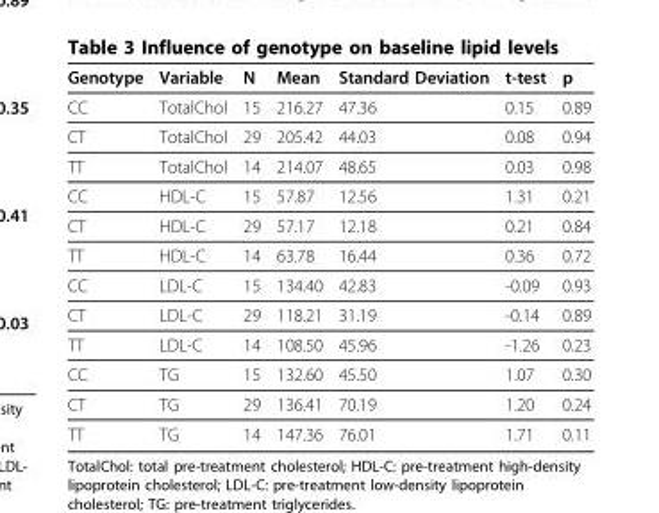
<table><thead><tr><td>Genotype</td><td>Variable</td><td>N</td><td>Mean</td><td>Standard Deviation</td><td>t-test</td><td>p</td></tr></thead><tbody><tr><td>CC</td><td>TotalChol</td><td>15</td><td>216.27</td><td>47.36</td><td>0.15</td><td>0.89</td></tr><tr><td>CT</td><td>TotalChol</td><td>29</td><td>205.42</td><td>44.03</td><td>0.08</td><td>0.94</td></tr><tr><td>TT</td><td>TotalChol</td><td>14</td><td>214.07</td><td>48.65</td><td>0.03</td><td>0.98</td></tr><tr><td>CC</td><td>HDL-C</td><td>15</td><td>57.87</td><td>12.56</td><td>1.31</td><td>0.21</td></tr><tr><td>CT</td><td>HDL-C</td><td>29</td><td>57.17</td><td>12.18</td><td>0.21</td><td>0.84</td></tr><tr><td>TT</td><td>HDL-C</td><td>14</td><td>63.78</td><td>16.44</td><td>0.36</td><td>0.72</td></tr><tr><td>CC</td><td>LDL-C</td><td>15</td><td>134.40</td><td>42.83</td><td>-0.09</td><td>0.93</td></tr><tr><td>CT</td><td>LDL-C</td><td>29</td><td>118.21</td><td>31.19</td><td>-0.14</td><td>0.89</td></tr><tr><td>TT</td><td>LDL-C</td><td>14</td><td>108.50</td><td>45.96</td><td>-1.26</td><td>0.23</td></tr><tr><td>CC</td><td>TG</td><td>15</td><td>132.60</td><td>45.50</td><td>1.07</td><td>0.30</td></tr><tr><td>CT</td><td>TG</td><td>29</td><td>136.41</td><td>70.19</td><td>1.20</td><td>0.24</td></tr><tr><td>TT</td><td>TG</td><td>14</td><td>147.36</td><td>76.01</td><td>1.71</td><td>0.11</td></tr></tbody></table>